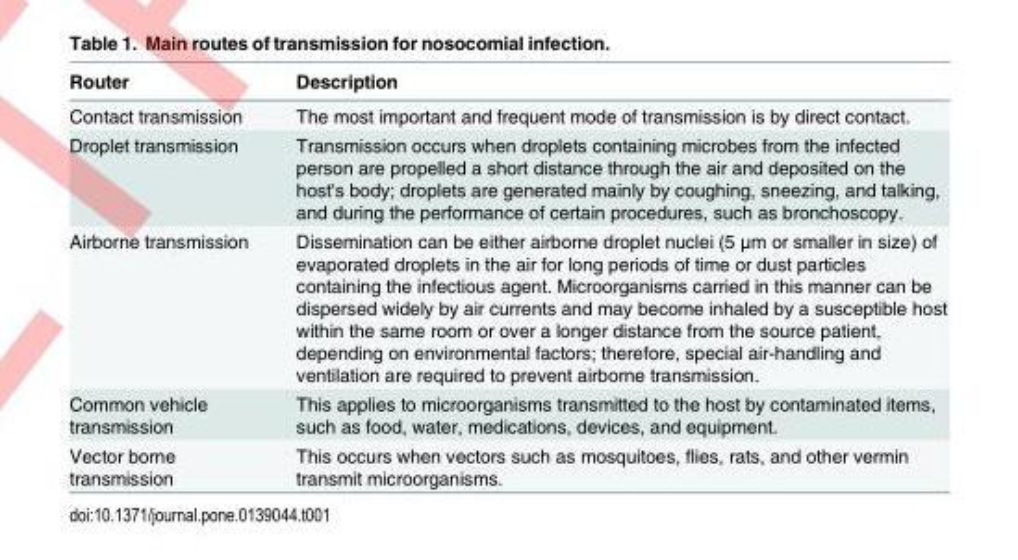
<table><thead><tr><td>Router</td><td>Description</td></tr></thead><tbody><tr><td>Contact transmission</td><td>The most important and frequent mode of transmission is by direct contact.</td></tr><tr><td>Droplet transmission</td><td>Transmission occurs when droplets containing microbes from the infected person are propelled a short distance through the air and deposited on the host&#x27;s body; droplets are generated mainly by coughing, sneezing, and talking, and during the performance of certain procedures, such as bronchoscopy.</td></tr><tr><td>Airborne transmission</td><td>Dissemination can be either airborne droplet nuclei (5 μm or smaller in size) of evaporated droplets in the air for long periods of time or dust particles containing the infectious agent. Microorganisms carried in this manner can be dispersed widely by air currents and may become inhaled by a susceptible host within the same room or over a longer distance from the source patient, depending on environmental factors; therefore, special air-handling and ventilation are required to prevent airborne transmission.</td></tr><tr><td>Common vehicle transmission</td><td>This applies to microorganisms transmitted to the host by contaminated items, such as food, water, medications, devices, and equipment.</td></tr><tr><td>Vector borne transmission</td><td>This occurs when vectors such as mosquitoes, flies, rats, and other vermin transmit microorganisms.</td></tr></tbody></table>